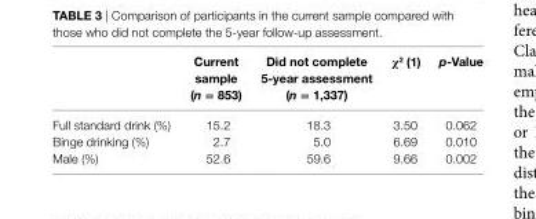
<table><thead><tr><td></td><td>current sample (n = 853)</td><td>Did not complete 5-year assessment (n = 1,337)</td><td>χ<sup>2</sup> (1)</td><td>p-Value</td></tr></thead><tbody><tr><td>Full standard drink (%)</td><td>15.2</td><td>18.3</td><td>3.50</td><td>0.062</td></tr><tr><td>Binge drinking (%)</td><td>2.7</td><td>5.0</td><td>6.69</td><td>0.010</td></tr><tr><td>Male (%)</td><td>52.6</td><td>59.6</td><td>9.66</td><td>0.002</td></tr></tbody></table>